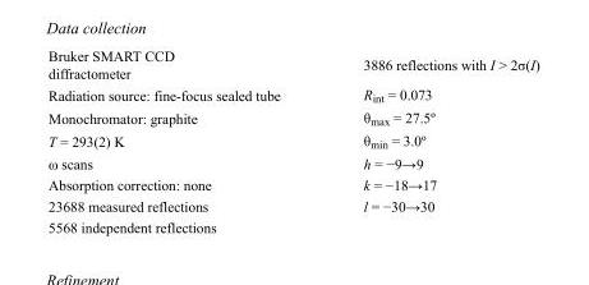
<table><tbody><tr><td>Bruker SMART CCD diffractometer</td><td>3886 reflections with I &gt; 2σ(I)</td></tr><tr><td>Radiation source: fine-focus sealed tube</td><td>R<sub>int</sub> = 0.073</td></tr><tr><td>Monochromator: graphite</td><td>θ<sub>max</sub> = 27.5º</td></tr><tr><td>T = 293(2) K</td><td>θ<sub>min</sub> = 3.0º</td></tr><tr><td>ω scans</td><td>h = −9→9</td></tr><tr><td>Absorption correction: none</td><td>k = −18→17</td></tr><tr><td>23688 measured reflections</td><td>l = −30→30</td></tr><tr><td>5568 independent reflections</td><td></td></tr></tbody></table>